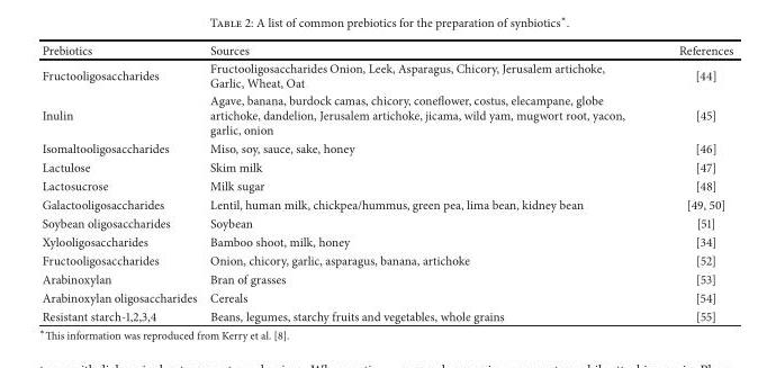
<table><thead><tr><td>Prebiotics</td><td>Sources</td><td>References</td></tr></thead><tbody><tr><td>Fructooligosaccharides</td><td>Fructooligosaccharides Onion, Leek, Asparagus, Chicory, Jerusalem artichoke, Garlic, Wheat, Oat</td><td>[44]</td></tr><tr><td>Inulin</td><td>Agave, banana, burdock camas, chicory, coneflower, costus, elecampane, globe artichoke, dandelion, Jerusalem artichoke, jicama, wild yam, mugwort root, yacon, garlic, onion</td><td>[45]</td></tr><tr><td>Isomaltooligosaccharides</td><td>Miso, soy, sauce, sake, honey</td><td>[46]</td></tr><tr><td>Lactulose</td><td>Skim milk</td><td>[47]</td></tr><tr><td>Lactosucrose</td><td>Milk sugar</td><td>[48]</td></tr><tr><td>Galactooligosaccharides</td><td>Lentil, human milk, chickpea/hummus, green pea, lima bean, kidney bean</td><td>[49, 50]</td></tr><tr><td>Soybean oligosaccharides</td><td>Soybean</td><td>[51]</td></tr><tr><td>Xylooligosaccharides</td><td>Bamboo shoot, milk, honey</td><td>[34]</td></tr><tr><td>Fructooligosaccharides</td><td>Onion, chicory, garlic, asparagus, banana, artichoke</td><td>[52]</td></tr><tr><td>Arabinoxylan</td><td>Bran of grasses</td><td>[53]</td></tr><tr><td>Arabinoxylan oligosaccharides</td><td>Cereals</td><td>[54]</td></tr><tr><td>Resistant starch-1,2,3,4</td><td>Beans, legumes, starchy fruits and vegetables, whole grains</td><td>[55]</td></tr></tbody></table>